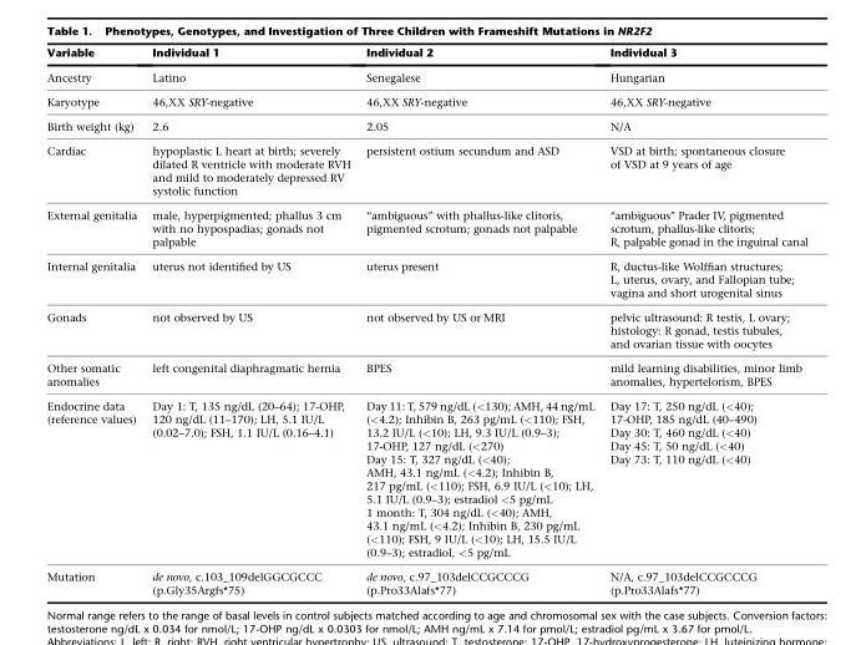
<table><thead><tr><td>Variable</td><td>Individual 1</td><td>Individual 2</td><td>Individual 3</td></tr></thead><tbody><tr><td>Ancestry</td><td>Latino</td><td>Senegalese</td><td>Hungarian</td></tr><tr><td>Karyotype</td><td>46,XX SRY-negative</td><td>46,XX SRY-negative</td><td>46,XX SRY-negative</td></tr><tr><td>Birth weight (kg)</td><td>2.6</td><td>2.05</td><td>N/A</td></tr><tr><td>Cardiac</td><td>hypoplastic L heart at birth; severely dilated R ventricle with moderate RVH and mild to moderately depressed RV systolic function</td><td>persistent ostium secundum and ASD</td><td>VSD at birth; spontaneous closure of VSD at 9 years of age</td></tr><tr><td>External genitalia</td><td>male, hyperpigmented; phallus 3 cm with no hypospadias; gonads not palpable</td><td>‘‘ambiguous’’ with phallus-like clitoris, pigmented scrotum; gonads not palpable</td><td>‘‘ambiguous’’ Prader IV, pigmented scrotum, phallus-like clitoris; R, palpable gonad in the inguinal canal</td></tr><tr><td>Internal genitalia</td><td>uterus not identified by US</td><td>uterus present</td><td>R, ductus-like Wolffian structures; L, uterus, ovary, and Fallopian tube; vagina and short urogenital sinus</td></tr><tr><td>Gonads</td><td>not observed by US</td><td>not observed by US or MRI</td><td>pelvic ultrasound: R testis, L ovary; histology: R gonad, testis tubules, and ovarian tissue with oocytes</td></tr><tr><td>Other somatic anomalies</td><td>left congenital diaphragmatic hernia</td><td>BPES</td><td>mild learning disabilities, minor limb anomalies, hypertelorism, BPES</td></tr><tr><td>Endocrine data (reference values)</td><td>Day 1: T, 135 ng/dL (20–64); 17-OHP, 120 ng/dL (11–170); LH, 5.1 IU/L (0.02–7.0); FSH, 1.1 IU/L (0.16–4.1)</td><td>Day 11: T, 579 ng/dL (&lt;130); AMH, 44 ng/mL (&lt;4.2); Inhibin B, 263 pg/mL (&lt;110); FSH, 13.2 IU/L (&lt;10); LH, 9.3 IU/L (0.9–3); 17-OHP, 127 ng/dL (&lt;270) Day 15: T, 327 ng/dL (&lt;40); AMH, 43.1 ng/mL (&lt;4.2); Inhibin B, 217 pg/mL (&lt;110); FSH, 6.9 IU/L (&lt;10); LH, 5.1 IU/L (0.9–3); estradiol &lt;5 pg/mL 1 month: T, 304 ng/dL (&lt;40); AMH, 43.1 ng/mL (&lt;4.2); Inhibin B, 230 pg/mL (&lt;110); FSH, 9 IU/L (&lt;10); LH, 15.5 IU/L (0.9–3); estradiol, &lt;5 pg/mL</td><td>Day 17: T, 250 ng/dL (&lt;40); 17-OHP, 185 ng/dL (40–490) Day 30: T, 460 ng/dL (&lt;40) Day 45: T, 50 ng/dL (&lt;40) Day 73: T, 110 ng/dL (&lt;40)</td></tr><tr><td>Mutation</td><td>de novo, c.103_109delGGCGCCC (p.Gly35Argfs*75)</td><td>de novo, c.97_103delCCGCCCG (p.Pro33Alafs*77)</td><td>N/A, c.97_103delCCGCCCG (p.Pro33Alafs*77)</td></tr></tbody></table>